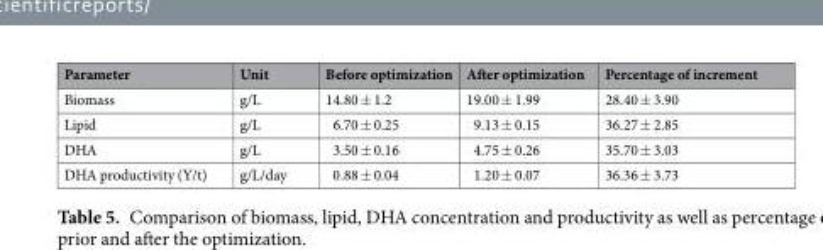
<table><thead><tr><td>Parameter</td><td>Unit</td><td>Before optimization</td><td>After optimization</td><td>Percentage of increment</td></tr></thead><tbody><tr><td>Biomass</td><td>g/L</td><td>14.80 ± 1.2</td><td>19.00 ± 1.99</td><td>28.40 ± 3.90</td></tr><tr><td>Lipid</td><td>g/L</td><td>6.70 ± 0.25</td><td>9.13 ± 0.15</td><td>36.27 ± 2.85</td></tr><tr><td>DHA</td><td>g/L</td><td>3.50 ± 0.16</td><td>4.75 ± 0.26</td><td>35.70 ± 3.03</td></tr><tr><td>DHA productivity (Y/t)</td><td>g/L/day</td><td>0.88 ± 0.04</td><td>1.20 ± 0.07</td><td>36.36 ± 3.73</td></tr></tbody></table>